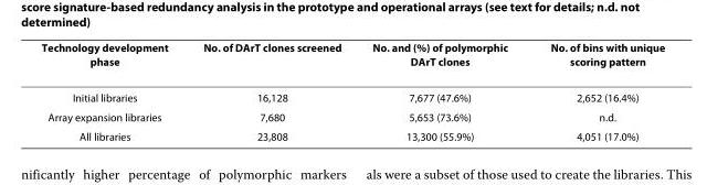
<table><thead><tr><td>Technology development phase</td><td>No. of DArT clones screened</td><td>No. and (%) of polymorphic DArT clones</td><td>No. of bins with unique scoring pattern</td></tr></thead><tbody><tr><td>Initial libraries</td><td>16,128</td><td>7,677 (47.6%)</td><td>2,652 (16.4%)</td></tr><tr><td>Array expansion libraries</td><td>7,680</td><td>5,653 (73.6%)</td><td>n.d.</td></tr><tr><td>All libraries</td><td>23,808</td><td>13,300 (55.9%)</td><td>4,051 (17.0%)</td></tr></tbody></table>